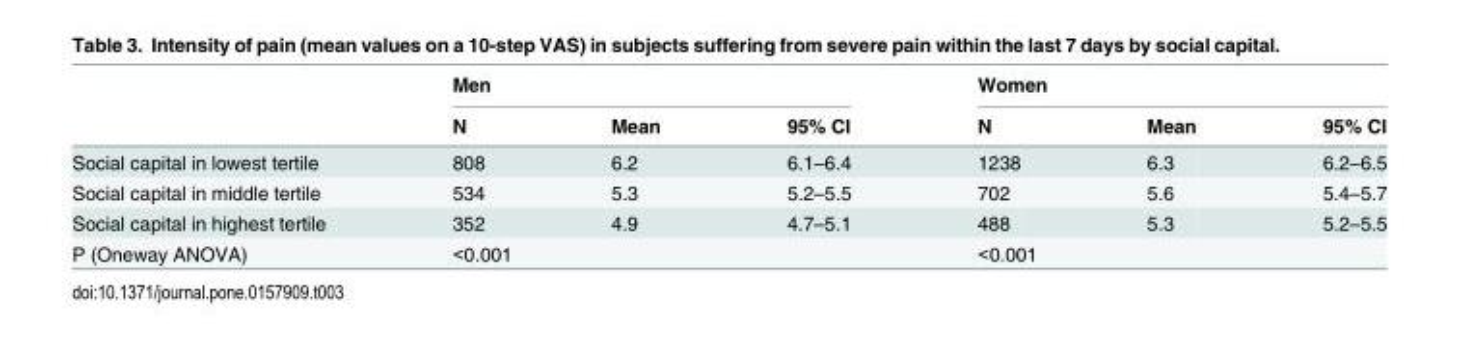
<table><thead><tr><td rowspan="2"></td><td colspan="3">Men</td><td colspan="3">Women</td></tr><tr><td>N</td><td>Mean</td><td>95% CI</td><td>N</td><td>Mean</td><td>95% CI</td></tr></thead><tbody><tr><td>Social capital in lowest tertile</td><td>808</td><td>6.2</td><td>6.1–6.4</td><td>1238</td><td>6.3</td><td>6.2–6.5</td></tr><tr><td>Social capital in middle tertile</td><td>534</td><td>5.3</td><td>5.2–5.5</td><td>702</td><td>5.6</td><td>5.4–5.7</td></tr><tr><td>Social capital in highest tertile</td><td>352</td><td>4.9</td><td>4.7–5.1</td><td>488</td><td>5.3</td><td>5.2–5.5</td></tr><tr><td>P (Oneway ANOVA)</td><td colspan="3">&lt;0.001</td><td colspan="3">&lt;0.001</td></tr></tbody></table>